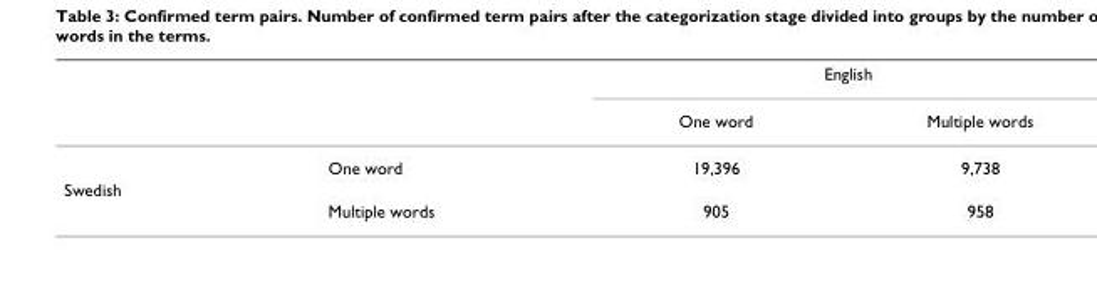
<table><thead><tr><td rowspan="2"></td><td rowspan="2"></td><td colspan="2">English</td></tr><tr><td>One word</td><td>Multiple words</td></tr></thead><tbody><tr><td></td><td>One word</td><td>19,396</td><td>9,738</td></tr><tr><td colspan="4">Swedish</td></tr><tr><td></td><td>Multiple words</td><td>905</td><td>958</td></tr></tbody></table>